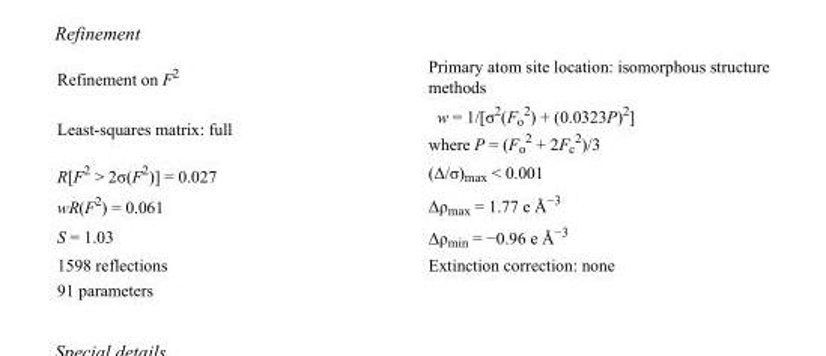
<table><tbody><tr><td>Refinement on F<sup>2</sup></td><td>Primary atom site location: isomorphous structure methods</td></tr><tr><td>Least-squares matrix: full</td><td>w = 1/[σ<sup>2</sup>(F<sub>o</sub> <sup>2</sup>) + (0.0323P)<sup>2</sup>] where P = (F<sub>o</sub> <sup>2</sup> + 2F<sub>c</sub> <sup>2</sup>)/3</td></tr><tr><td>R[F<sup>2</sup> &gt; 2σ(F<sup>2</sup>)] = 0.027</td><td>(Δ/σ)<sub>max</sub> &lt; 0.001</td></tr><tr><td>wR(F<sup>2</sup>) = 0.061</td><td>Δρ<sub>max</sub> = 1.77 e Å<sup>−3</sup></td></tr><tr><td>S = 1.03</td><td>Δρ<sub>min</sub> = −0.96 e Å<sup>−3</sup></td></tr><tr><td>1598 reflections</td><td>Extinction correction: none</td></tr><tr><td>91 parameters</td><td></td></tr></tbody></table>